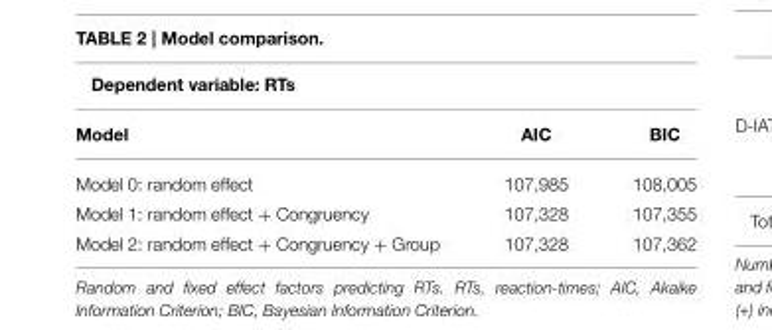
<table><thead><tr><td colspan="3">Dependent variable: RTs</td></tr><tr><td>Model</td><td>AIC</td><td>BIC</td></tr></thead><tbody><tr><td>Model 0: random effect</td><td>107,985</td><td>108,005</td></tr><tr><td>Model 1: random effect + Congruency</td><td>107,328</td><td>107,355</td></tr><tr><td>Model 2: random effect + Congruency + Group</td><td>107,328</td><td>107,362</td></tr></tbody></table>